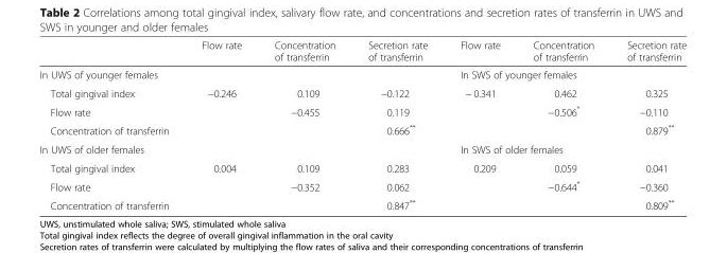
<table><thead><tr><td></td><td>Flow rate</td><td>Concentration of transferrin</td><td>Secretion rate of transferrin</td><td>Flow rate</td><td>Concentration of transferrin</td><td>Secretion rate of transferrin</td></tr></thead><tbody><tr><td colspan="4">In UWS of younger females</td><td colspan="3">In SWS of younger females</td></tr><tr><td>Total gingival index</td><td>−0.246</td><td>0.109</td><td>−0.122</td><td>− 0.341</td><td>0.462</td><td>0.325</td></tr><tr><td>Flow rate</td><td></td><td>−0.455</td><td>0.119</td><td></td><td>−0.506*</td><td>−0.110</td></tr><tr><td>Concentration of transferrin</td><td></td><td></td><td>0.666**</td><td></td><td></td><td>0.879**</td></tr><tr><td colspan="4">In UWS of older females</td><td colspan="3">In SWS of older females</td></tr><tr><td>Total gingival index</td><td>0.004</td><td>0.109</td><td>0.283</td><td>0.209</td><td>0.059</td><td>0.041</td></tr><tr><td>Flow rate</td><td></td><td>−0.352</td><td>0.062</td><td></td><td>−0.644*</td><td>−0.360</td></tr><tr><td>Concentration of transferrin</td><td></td><td></td><td>0.847**</td><td></td><td></td><td>0.809**</td></tr></tbody></table>